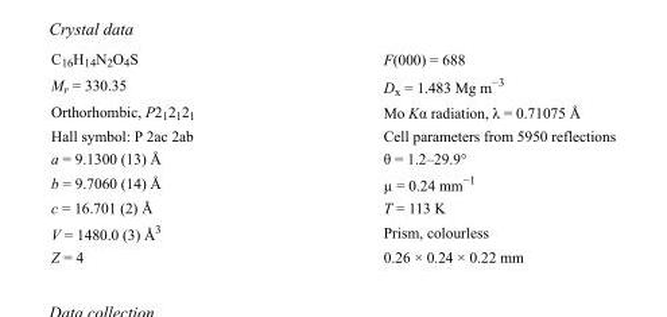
<table><tbody><tr><td>C<sub>16</sub>H<sub>14</sub>N<sub>2</sub>O<sub>4</sub>S</td><td>F(000) = 688</td></tr><tr><td>M<sub>r</sub> = 330.35</td><td>D<sub>x</sub> = 1.483 Mg m<sup>−3</sup></td></tr><tr><td>Orthorhombic, P2<sub>1</sub>2<sub>1</sub>2<sub>1</sub></td><td>Mo Kα radiation, λ = 0.71075 Å</td></tr><tr><td>Hall symbol: P 2ac 2ab</td><td>Cell parameters from 5950 reflections</td></tr><tr><td>a = 9.1300 (13) Å</td><td>θ = 1.2–29.9°</td></tr><tr><td>b = 9.7060 (14) Å</td><td>µ = 0.24 mm<sup>−1</sup></td></tr><tr><td>c = 16.701 (2) Å</td><td>T = 113 K</td></tr><tr><td>V = 1480.0 (3) Å<sup>3</sup></td><td>Prism, colourless</td></tr><tr><td>Z = 4</td><td>0.26 × 0.24 × 0.22 mm</td></tr></tbody></table>